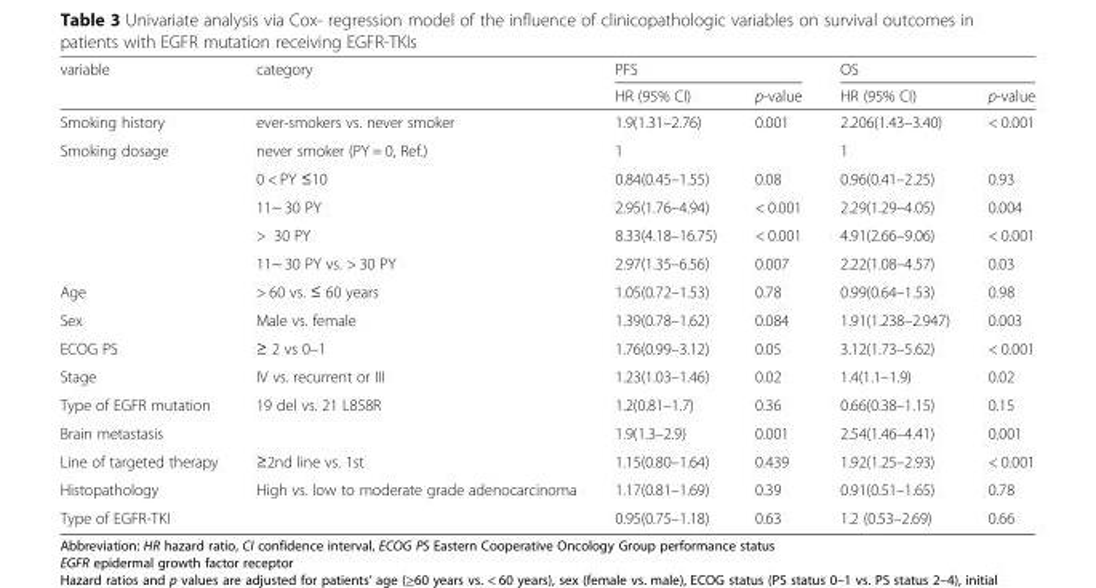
<table><thead><tr><td rowspan="2">variable</td><td rowspan="2">category</td><td colspan="2">PFS</td><td colspan="2">OS</td></tr><tr><td>HR (95% CI)</td><td>p-value</td><td>HR (95% CI)</td><td>p-value</td></tr></thead><tbody><tr><td>Smoking history</td><td>ever-smokers vs. never smoker</td><td>1.9(1.31–2.76)</td><td>0.001</td><td>2.206(1.43–3.40)</td><td>&lt; 0.001</td></tr><tr><td rowspan="5">Smoking dosage</td><td>never smoker (PY = 0, Ref.)</td><td>1</td><td></td><td>1</td><td></td></tr><tr><td>0 &lt; PY ≤10</td><td>0.84(0.45–1.55)</td><td>0.08</td><td>0.96(0.41–2.25)</td><td>0.93</td></tr><tr><td>11~ 30 PY</td><td>2.95(1.76–4.94)</td><td>&lt; 0.001</td><td>2.29(1.29–4.05)</td><td>0.004</td></tr><tr><td>&gt; 30 PY</td><td>8.33(4.18–16.75)</td><td>&lt; 0.001</td><td>4.91(2.66–9.06)</td><td>&lt; 0.001</td></tr><tr><td>11~ 30 PY vs. &gt; 30 PY</td><td>2.97(1.35–6.56)</td><td>0.007</td><td>2.22(1.08–4.57)</td><td>0.03</td></tr><tr><td>Age</td><td>&gt; 60 vs. ≤ 60 years</td><td>1.05(0.72–1.53)</td><td>0.78</td><td>0.99(0.64–1.53)</td><td>0.98</td></tr><tr><td>Sex</td><td>Male vs. female</td><td>1.39(0.78–1.62)</td><td>0.084</td><td>1.91(1.238–2.947)</td><td>0.003</td></tr><tr><td>ECOG PS</td><td>≥ 2 vs 0–1</td><td>1.76(0.99–3.12)</td><td>0.05</td><td>3.12(1.73–5.62)</td><td>&lt; 0.001</td></tr><tr><td>Stage</td><td>IV vs. recurrent or III</td><td>1.23(1.03–1.46)</td><td>0.02</td><td>1.4(1.1–1.9)</td><td>0.02</td></tr><tr><td>Type of EGFR mutation</td><td>19 del vs. 21 L858R</td><td>1.2(0.81–1.7)</td><td>0.36</td><td>0.66(0.38–1.15)</td><td>0.15</td></tr><tr><td>Brain metastasis</td><td></td><td>1.9(1.3–2.9)</td><td>0.001</td><td>2.54(1.46–4.41)</td><td>0.001</td></tr><tr><td>Line of targeted therapy</td><td>≥2nd line vs. 1st</td><td>1.15(0.80–1.64)</td><td>0.439</td><td>1.92(1.25–2.93)</td><td>&lt; 0.001</td></tr><tr><td>Histopathology</td><td>High vs. low to moderate grade adenocarcinoma</td><td>1.17(0.81–1.69)</td><td>0.39</td><td>0.91(0.51–1.65)</td><td>0.78</td></tr><tr><td>Type of EGFR-TKI</td><td></td><td>0.95(0.75–1.18)</td><td>0.63</td><td>1.2 (0.53–2.69)</td><td>0.66</td></tr></tbody></table>